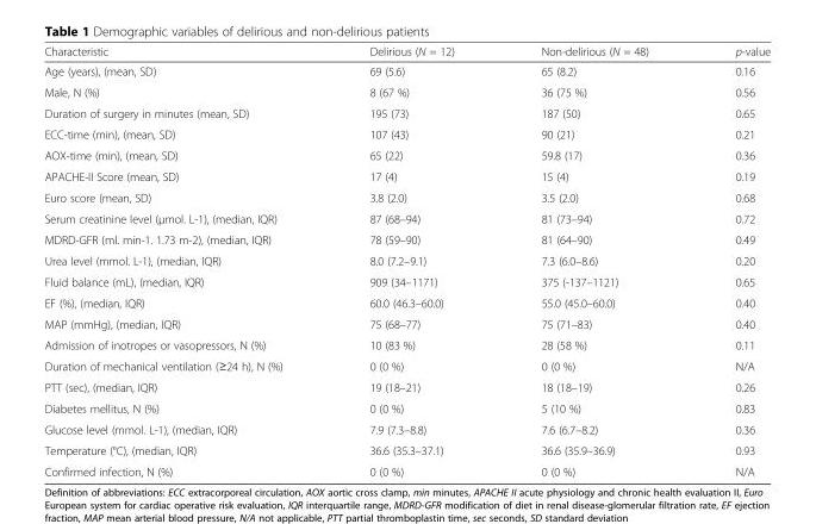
<table><thead><tr><td>Characteristic</td><td>Delirious (N = 12)</td><td>Non-delirious (N = 48)</td><td>p-value</td></tr></thead><tbody><tr><td>Age (years), (mean, SD)</td><td>69 (5.6)</td><td>65 (8.2)</td><td>0.16</td></tr><tr><td>Male, N (%)</td><td>8 (67 %)</td><td>36 (75 %)</td><td>0.56</td></tr><tr><td>Duration of surgery in minutes (mean, SD)</td><td>195 (73)</td><td>187 (50)</td><td>0.65</td></tr><tr><td>ECC-time (min), (mean, SD)</td><td>107 (43)</td><td>90 (21)</td><td>0.21</td></tr><tr><td>AOX-time (min), (mean, SD)</td><td>65 (22)</td><td>59.8 (17)</td><td>0.36</td></tr><tr><td>APACHE-II Score (mean, SD)</td><td>17 (4)</td><td>15 (4)</td><td>0.19</td></tr><tr><td>Euro score (mean, SD)</td><td>3.8 (2.0)</td><td>3.5 (2.0)</td><td>0.68</td></tr><tr><td>Serum creatinine level (μmol. L-1), (median, IQR)</td><td>87 (68–94)</td><td>81 (73–94)</td><td>0.72</td></tr><tr><td>MDRD-GFR (ml. min-1. 1.73 m-2), (median, IQR)</td><td>78 (59–90)</td><td>81 (64–90)</td><td>0.49</td></tr><tr><td>Urea level (mmol. L-1), (median, IQR)</td><td>8.0 (7.2–9.1)</td><td>7.3 (6.0–8.6)</td><td>0.20</td></tr><tr><td>Fluid balance (mL), (median, IQR)</td><td>909 (34–1171)</td><td>375 (-137–1121)</td><td>0.65</td></tr><tr><td>EF (%), (median, IQR)</td><td>60.0 (46.3–60.0)</td><td>55.0 (45.0–60.0)</td><td>0.40</td></tr><tr><td>MAP (mmHg), (median, IQR)</td><td>75 (68–77)</td><td>75 (71–83)</td><td>0.40</td></tr><tr><td>Admission of inotropes or vasopressors, N (%)</td><td>10 (83 %)</td><td>28 (58 %)</td><td>0.11</td></tr><tr><td>Duration of mechanical ventilation (≥24 h), N (%)</td><td>0 (0 %)</td><td>0 (0 %)</td><td>N/A</td></tr><tr><td>PTT (sec), (median, IQR)</td><td>19 (18–21)</td><td>18 (18–19)</td><td>0.26</td></tr><tr><td>Diabetes mellitus, N (%)</td><td>0 (0 %)</td><td>5 (10 %)</td><td>0.83</td></tr><tr><td>Glucose level (mmol. L-1), (median, IQR)</td><td>7.9 (7.3–8.8)</td><td>7.6 (6.7–8.2)</td><td>0.36</td></tr><tr><td>Temperature (°C), (median, IQR)</td><td>36.6 (35.3–37.1)</td><td>36.6 (35.9–36.9)</td><td>0.93</td></tr><tr><td>Confirmed infection, N (%)</td><td>0 (0 %)</td><td>0 (0 %)</td><td>N/A</td></tr></tbody></table>